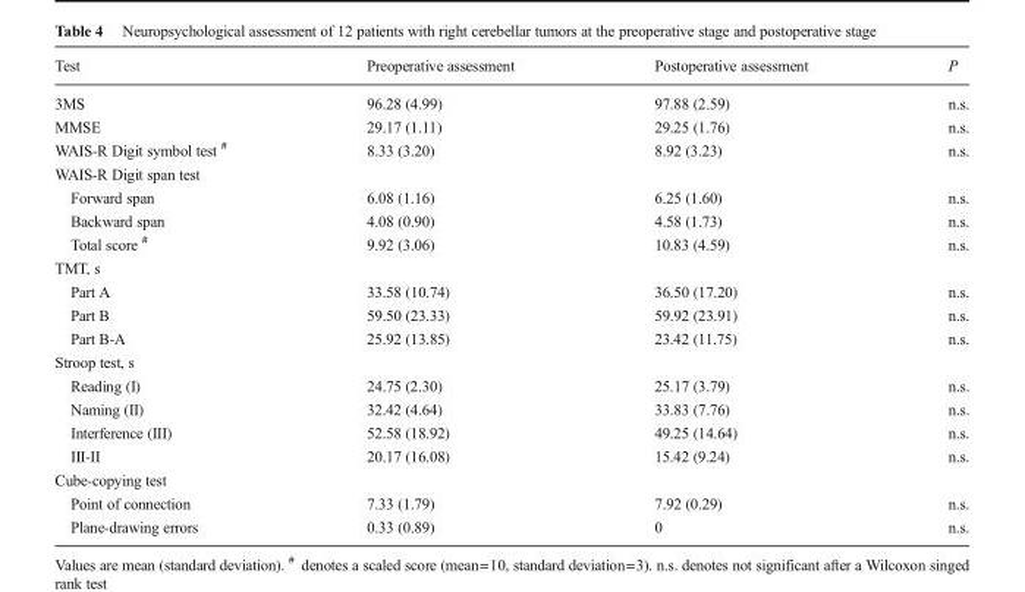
<table><thead><tr><td>Test</td><td>Preoperative assessment</td><td>Postoperative assessment</td><td>P</td></tr></thead><tbody><tr><td>3MS</td><td>96.28 (4.99)</td><td>97.88 (2.59)</td><td>n.s.</td></tr><tr><td>MMSE</td><td>29.17 (1.11)</td><td>29.25 (1.76)</td><td>n.s.</td></tr><tr><td>WAIS-R Digit symbol test <sup>#</sup></td><td>8.33 (3.20)</td><td>8.92 (3.23)</td><td>n.s.</td></tr><tr><td colspan="4">WAIS-R Digit span test</td></tr><tr><td>Forward span</td><td>6.08 (1.16)</td><td>6.25 (1.60)</td><td>n.s.</td></tr><tr><td>Backward span</td><td>4.08 (0.90)</td><td>4.58 (1.73)</td><td>n.s.</td></tr><tr><td>Total score <sup>#</sup></td><td>9.92 (3.06)</td><td>10.83 (4.59)</td><td>n.s.</td></tr><tr><td colspan="4">TMT, s</td></tr><tr><td>Part A</td><td>33.58 (10.74)</td><td>36.50 (17.20)</td><td>n.s.</td></tr><tr><td>Part B</td><td>59.50 (23.33)</td><td>59.92 (23.91)</td><td>n.s.</td></tr><tr><td>Part B-A</td><td>25.92 (13.85)</td><td>23.42 (11.75)</td><td>n.s.</td></tr><tr><td colspan="4">Stroop test, s</td></tr><tr><td>Reading (I)</td><td>24.75 (2.30)</td><td>25.17 (3.79)</td><td>n.s.</td></tr><tr><td>Naming (II)</td><td>32.42 (4.64)</td><td>33.83 (7.76)</td><td>n.s.</td></tr><tr><td>Interference (III)</td><td>52.58 (18.92)</td><td>49.25 (14.64)</td><td>n.s.</td></tr><tr><td>III-II</td><td>20.17 (16.08)</td><td>15.42 (9.24)</td><td>n.s.</td></tr><tr><td colspan="4">Cube-copying test</td></tr><tr><td>Point of connection</td><td>7.33 (1.79)</td><td>7.92 (0.29)</td><td>n.s.</td></tr><tr><td>Plane-drawing errors</td><td>0.33 (0.89)</td><td>0</td><td>n.s.</td></tr></tbody></table>